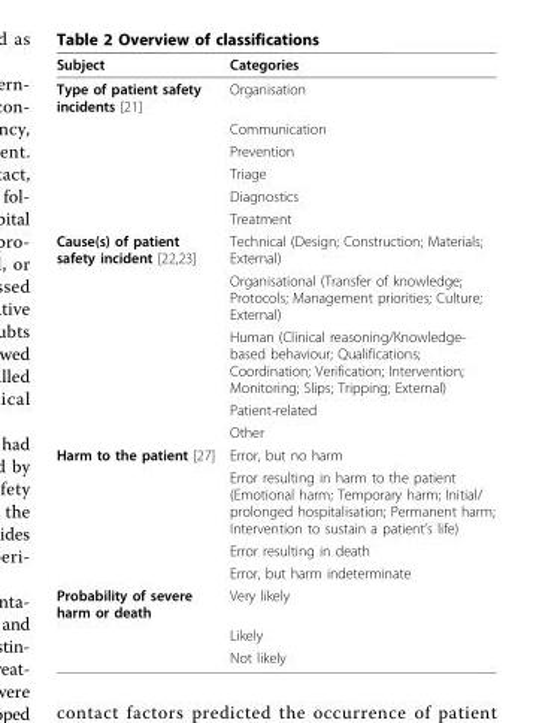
<table><thead><tr><td>Subject</td><td>Categories</td></tr></thead><tbody><tr><td rowspan="6">Type of patient safety incidents [21]</td><td>Organisation</td></tr><tr><td>Communication</td></tr><tr><td>Prevention</td></tr><tr><td>Triage</td></tr><tr><td>Diagnostics</td></tr><tr><td>Treatment</td></tr><tr><td rowspan="5">Cause(s) of patient safety incident [22,23]</td><td>Technical (Design; Construction; Materials; External)</td></tr><tr><td>Organisational (Transfer of knowledge; Protocols; Management priorities; Culture; External)</td></tr><tr><td>Human (Clinical reasoning/Knowledge- based behaviour; Qualifications; Coordination; Verification; Intervention; Monitoring; Slips; Tripping; External)</td></tr><tr><td>Patient-related</td></tr><tr><td>Other</td></tr><tr><td rowspan="4">Harm to the patient [27]</td><td>Error, but no harm</td></tr><tr><td>Error resulting in harm to the patient (Emotional harm; Temporary harm; Initial/ prolonged hospitalisation; Permanent harm; Intervention to sustain a patient’s life)</td></tr><tr><td>Error resulting in death</td></tr><tr><td>Error, but harm indeterminate</td></tr><tr><td rowspan="3">Probability of severe harm or death</td><td>Very likely</td></tr><tr><td>Likely</td></tr><tr><td>Not likely</td></tr></tbody></table>